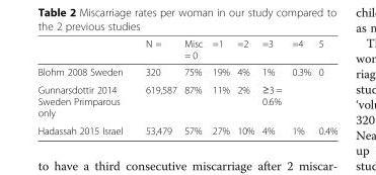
<table><thead><tr><td></td><td>N =</td><td>Misc = 0</td><td>=1</td><td>=2</td><td>=3</td><td>=4</td><td>5</td></tr></thead><tbody><tr><td>Blohm 2008 Sweden</td><td>320</td><td>75%</td><td>19%</td><td>4%</td><td>1%</td><td>0.3%</td><td>0</td></tr><tr><td>Gunnarsdottir 2014 Sweden Primparous only</td><td>619,587</td><td>87%</td><td>11%</td><td>2%</td><td>≥3 = 0.6%</td><td></td><td></td></tr><tr><td>Hadassah 2015 Israel</td><td>53,479</td><td>57%</td><td>27%</td><td>10%</td><td>4%</td><td>1%</td><td>0.4%</td></tr></tbody></table>